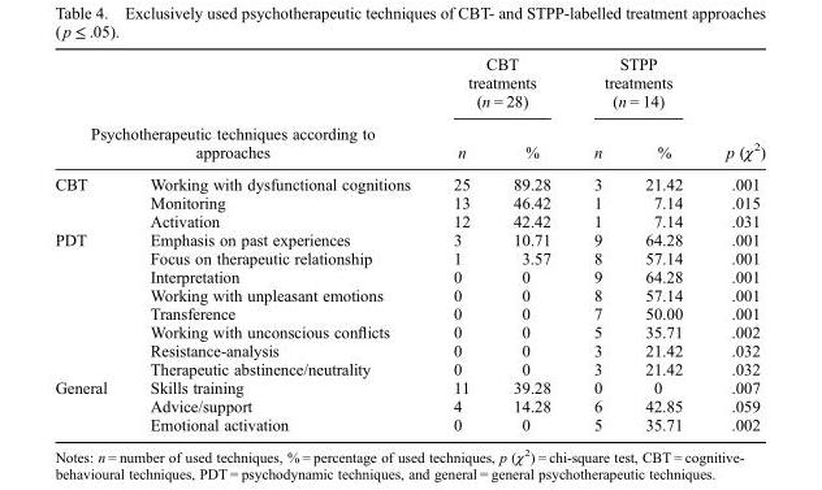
<table><thead><tr><td></td><td></td><td colspan="2">CBT treatments (n = 28)</td><td colspan="2">STPP treatments (n = 14)</td><td rowspan="2">p (χ<sup>2</sup>)</td></tr><tr><td colspan="2">Psychotherapeutic techniques according to approaches</td><td>n</td><td>%</td><td>n</td><td>%</td></tr></thead><tbody><tr><td rowspan="3">CBT</td><td>Working with dysfunctional cognitions</td><td>25</td><td>89.28</td><td>3</td><td>21.42</td><td>.001</td></tr><tr><td>Monitoring</td><td>13</td><td>46.42</td><td>1</td><td>7.14</td><td>.015</td></tr><tr><td>Activation</td><td>12</td><td>42.42</td><td>1</td><td>7.14</td><td>.031</td></tr><tr><td rowspan="8">PDT</td><td>Emphasis on past experiences</td><td>3</td><td>10.71</td><td>9</td><td>64.28</td><td>.001</td></tr><tr><td>Focus on therapeutic relationship</td><td>1</td><td>3.57</td><td>8</td><td>57.14</td><td>.001</td></tr><tr><td>Interpretation</td><td>0</td><td>0</td><td>9</td><td>64.28</td><td>.001</td></tr><tr><td>Working with unpleasant emotions</td><td>0</td><td>0</td><td>8</td><td>57.14</td><td>.001</td></tr><tr><td>Transference</td><td>0</td><td>0</td><td>7</td><td>50.00</td><td>.001</td></tr><tr><td>Working with unconscious conflicts</td><td>0</td><td>0</td><td>5</td><td>35.71</td><td>.002</td></tr><tr><td>Resistance-analysis</td><td>0</td><td>0</td><td>3</td><td>21.42</td><td>.032</td></tr><tr><td>Therapeutic abstinence/neutrality</td><td>0</td><td>0</td><td>3</td><td>21.42</td><td>.032</td></tr><tr><td rowspan="3">General</td><td>Skills training</td><td>11</td><td>39.28</td><td>0</td><td>0</td><td>.007</td></tr><tr><td>Advice/support</td><td>4</td><td>14.28</td><td>6</td><td>42.85</td><td>.059</td></tr><tr><td>Emotional activation</td><td>0</td><td>0</td><td>5</td><td>35.71</td><td>.002</td></tr></tbody></table>